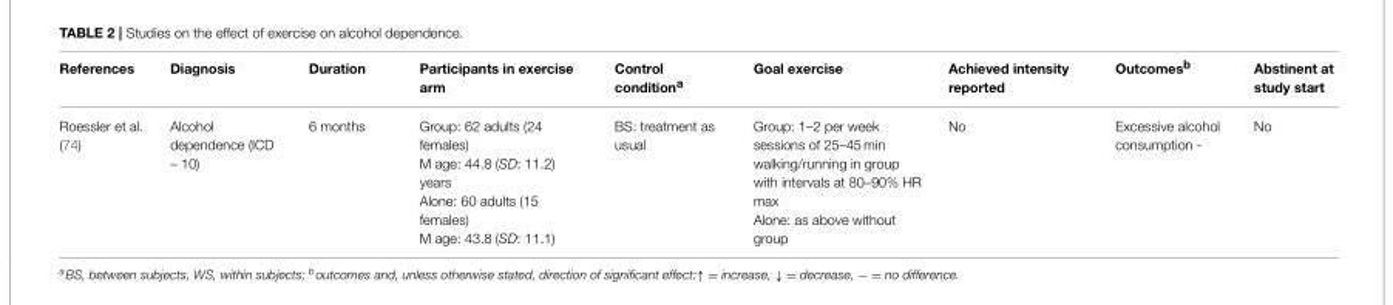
<table><thead><tr><td>References</td><td>Diagnosis</td><td>Duration</td><td>Participants in exercise arm</td><td>Control condition<sup>a</sup></td><td>Goal exercise</td><td>Achieved intensity reported</td><td>Outcomes<sup>b</sup></td><td>Abstinent at study start</td></tr></thead><tbody><tr><td>Roessler et al. (74)</td><td>Alcohol dependence (ICD – 10)</td><td>6 months</td><td>Group: 62 adults (24 females) M age: 44.8 (SD: 11.2) years Alone: 60 adults (15 females) M age: 43.8 (SD: 11.1)</td><td>BS: treatment as usual</td><td>Group: 1–2 per week sessions of 25–45 min walking/running in group with intervals at 80–90% HR max Alone: as above without group</td><td>No</td><td>Excessive alcohol consumption -</td><td>No</td></tr></tbody></table>